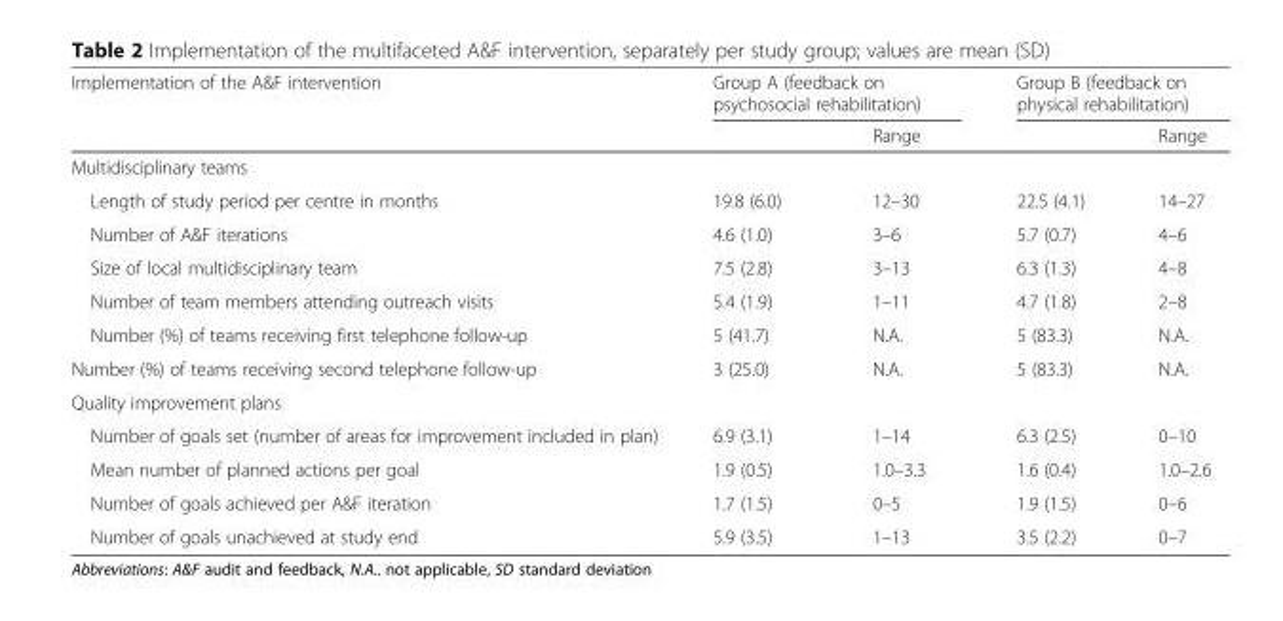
<table><thead><tr><td rowspan="2">Implementation of the A&amp;F intervention</td><td colspan="2">Group A (feedback on psychosocial rehabilitation)</td><td colspan="2">Group B (feedback on physical rehabilitation)</td></tr><tr><td></td><td>Range</td><td></td><td>Range</td></tr></thead><tbody><tr><td colspan="5">Multidisciplinary teams</td></tr><tr><td>Length of study period per centre in months</td><td>19.8 (6.0)</td><td>12–30</td><td>22.5 (4.1)</td><td>14–27</td></tr><tr><td>Number of A&amp;F iterations</td><td>4.6 (1.0)</td><td>3–6</td><td>5.7 (0.7)</td><td>4–6</td></tr><tr><td>Size of local multidisciplinary team</td><td>7.5 (2.8)</td><td>3–13</td><td>6.3 (1.3)</td><td>4–8</td></tr><tr><td>Number of team members attending outreach visits</td><td>5.4 (1.9)</td><td>1–11</td><td>4.7 (1.8)</td><td>2–8</td></tr><tr><td>Number (%) of teams receiving first telephone follow-up</td><td>5 (41.7)</td><td>N.A.</td><td>5 (83.3)</td><td>N.A.</td></tr><tr><td>Number (%) of teams receiving second telephone follow-up</td><td>3 (25.0)</td><td>N.A.</td><td>5 (83.3)</td><td>N.A.</td></tr><tr><td colspan="5">Quality improvement plans</td></tr><tr><td>Number of goals set (number of areas for improvement included in plan)</td><td>6.9 (3.1)</td><td>1–14</td><td>6.3 (2.5)</td><td>0–10</td></tr><tr><td>Mean number of planned actions per goal</td><td>1.9 (0.5)</td><td>1.0–3.3</td><td>1.6 (0.4)</td><td>1.0–2.6</td></tr><tr><td>Number of goals achieved per A&amp;F iteration</td><td>1.7 (1.5)</td><td>0–5</td><td>1.9 (1.5)</td><td>0–6</td></tr><tr><td>Number of goals unachieved at study end</td><td>5.9 (3.5)</td><td>1–13</td><td>3.5 (2.2)</td><td>0–7</td></tr></tbody></table>